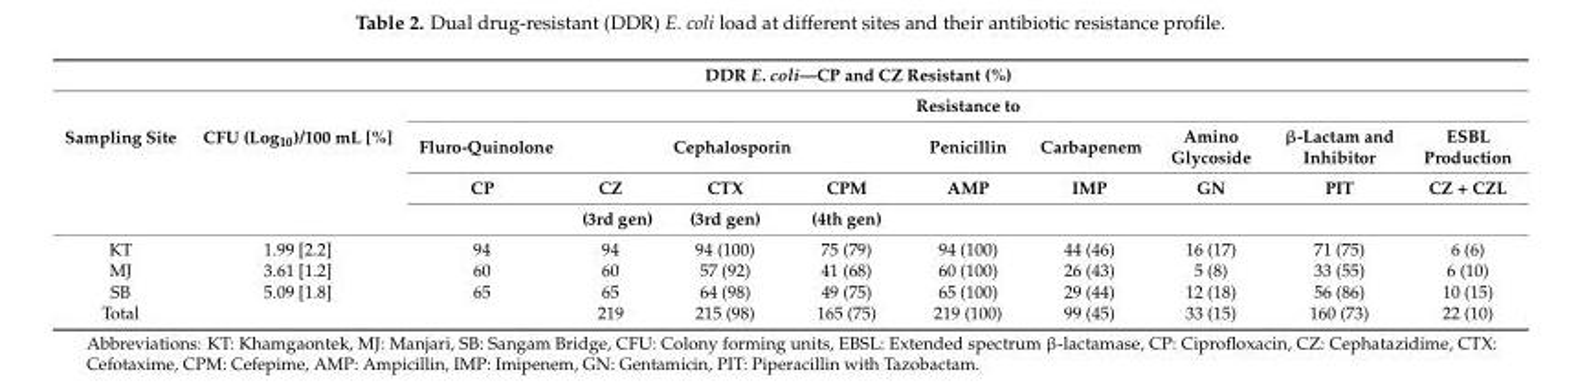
<table><thead><tr><td rowspan="5">Sampling Site</td><td colspan="10">DDR E. coli—CP and CZ Resistant (%)</td></tr><tr><td rowspan="4">CFU (Log<sub>10</sub>)/100 mL [%]</td><td colspan="9">Resistance to</td></tr><tr><td rowspan="3">Fluro-Quinolone CP</td><td colspan="3">Cephalosporin</td><td rowspan="3">Penicillin AMP</td><td rowspan="3">Carbapenem IMP</td><td rowspan="3">Amino Glycoside GN</td><td rowspan="3">β-Lactam and Inhibitor PIT</td><td rowspan="3">ESBL Production CZ + CZL</td></tr><tr><td rowspan="2">CZ (3rd gen)</td><td rowspan="2">CTX (3rd gen)</td><td rowspan="2">CPM (4th gen)</td></tr><tr></tr></thead><tbody><tr><td>KT</td><td>1.99 [2.2]</td><td>94</td><td>94</td><td>94 (100)</td><td>75 (79)</td><td>94 (100)</td><td>44 (46)</td><td>16 (17)</td><td>71 (75)</td><td>6 (6)</td></tr><tr><td>MJ</td><td>3.61 [1.2]</td><td>60</td><td>60</td><td>57 (92)</td><td>41 (68)</td><td>60 (100)</td><td>26 (43)</td><td>5 (8)</td><td>33 (55)</td><td>6 (10)</td></tr><tr><td>SB</td><td>5.09 [1.8]</td><td>65</td><td>65</td><td>64 (98)</td><td>49 (75)</td><td>65 (100)</td><td>29 (44)</td><td>12 (18)</td><td>56 (86)</td><td>10 (15)</td></tr><tr><td>Total</td><td></td><td></td><td>219</td><td>215 (98)</td><td>165 (75)</td><td>219 (100)</td><td>99 (45)</td><td>33 (15)</td><td>160 (73)</td><td>22 (10)</td></tr></tbody></table>